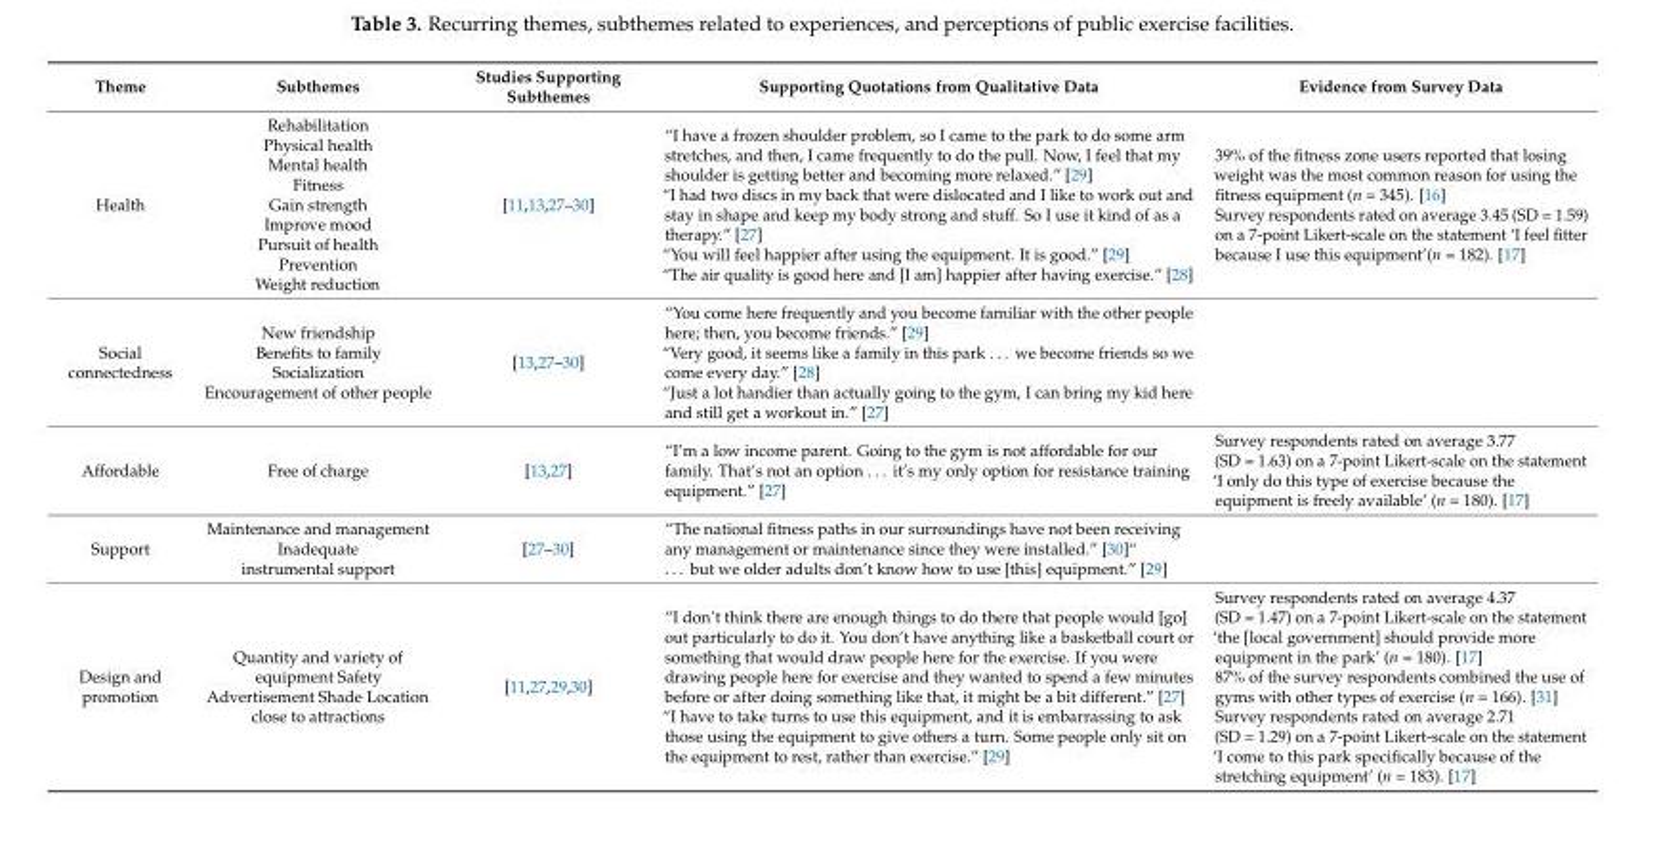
<table><thead><tr><td>Theme</td><td>Subthemes</td><td>Studies Supporting Subthemes</td><td>Supporting Quotations from Qualitative Data</td><td>Evidence from Survey Data</td></tr></thead><tbody><tr><td>Health</td><td>Rehabilitation Physical health Mental health Fitness Gain strength Improve mood Pursuit of health Prevention Weight reduction</td><td>[11,13,27–30]</td><td>“I have a frozen shoulder problem, so I came to the park to do some arm stretches, and then, I came frequently to do the pull. Now, I feel that my shoulder is getting better and becoming more relaxed.” [29] “I had two discs in my back that were dislocated and I like to work out and stay in shape and keep my body strong and stuff. So I use it kind of as a therapy.” [27] “You will feel happier after using the equipment. It is good.” [29] “The air quality is good here and [I am] happier after having exercise.” [28]</td><td>39% of the fitness zone users reported that losing weight was the most common reason for using the fitness equipment (n = 345). [16] Survey respondents rated on average 3.45 (SD = 1.59) on a 7-point Likert-scale on the statement ‘I feel fitter because I use this equipment’(n = 182). [17]</td></tr><tr><td>Social connectedness</td><td>New friendship Benefits to family Socialization Encouragement of other people</td><td>[13,27–30]</td><td>“You come here frequently and you become familiar with the other people here; then, you become friends.” [29] “Very good, it seems like a family in this park . . . we become friends so we come every day.” [28] “Just a lot handier than actually going to the gym, I can bring my kid here and still get a workout in.” [27]</td><td></td></tr><tr><td>Affordable</td><td>Free of charge</td><td>[13,27]</td><td>“I’m a low income parent. Going to the gym is not affordable for our family. That’s not an option . . . it’s my only option for resistance training equipment.” [27]</td><td>Survey respondents rated on average 3.77 (SD = 1.63) on a 7-point Likert-scale on the statement ‘I only do this type of exercise because the equipment is freely available’ (n = 180). [17]</td></tr><tr><td>Support</td><td>Maintenance and management Inadequate instrumental support</td><td>[27–30]</td><td>“The national fitness paths in our surroundings have not been receiving any management or maintenance since they were installed.” [30]“ . . . but we older adults don’t know how to use [this] equipment.” [29]</td><td></td></tr><tr><td>Design and promotion</td><td>Quantity and variety of equipment Safety Advertisement Shade Location close to attractions</td><td>[11,27,29,30]</td><td>“I don’t think there are enough things to do there that people would [go] out particularly to do it. You don’t have anything like a basketball court or something that would draw people here for the exercise. If you were drawing people here for exercise and they wanted to spend a few minutes before or after doing something like that, it might be a bit different.” [27] “I have to take turns to use this equipment, and it is embarrassing to ask those using the equipment to give others a turn. Some people only sit on the equipment to rest, rather than exercise.” [29]</td><td>Survey respondents rated on average 4.37 (SD = 1.47) on a 7-point Likert-scale on the statement ‘the [local government] should provide more equipment in the park’ (n = 180). [17] 87% of the survey respondents combined the use of gyms with other types of exercise (n = 166). [31] Survey respondents rated on average 2.71 (SD = 1.29) on a 7-point Likert-scale on the statement ‘I come to this park specifically because of the stretching equipment’ (n = 183). [17]</td></tr></tbody></table>